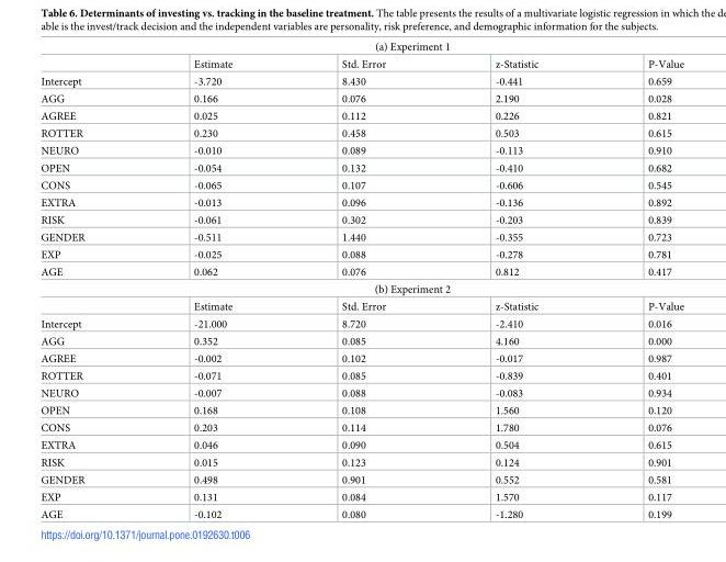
<table><tbody><tr><td colspan="5">(a) Experiment 1</td></tr><tr><td></td><td>Estimate</td><td>Std. Error</td><td>z-Statistic</td><td>P-Value</td></tr><tr><td>Intercept</td><td>-3.720</td><td>8.430</td><td>-0.441</td><td>0.659</td></tr><tr><td>AGG</td><td>0.166</td><td>0.076</td><td>2.190</td><td>0.028</td></tr><tr><td>AGREE</td><td>0.025</td><td>0.112</td><td>0.226</td><td>0.821</td></tr><tr><td>ROTTER</td><td>0.230</td><td>0.458</td><td>0.503</td><td>0.615</td></tr><tr><td>NEURO</td><td>-0.010</td><td>0.089</td><td>-0.113</td><td>0.910</td></tr><tr><td>OPEN</td><td>-0.054</td><td>0.132</td><td>-0.410</td><td>0.682</td></tr><tr><td>CONS</td><td>-0.065</td><td>0.107</td><td>-0.606</td><td>0.545</td></tr><tr><td>EXTRA</td><td>-0.013</td><td>0.096</td><td>-0.136</td><td>0.892</td></tr><tr><td>RISK</td><td>-0.061</td><td>0.302</td><td>-0.203</td><td>0.839</td></tr><tr><td>GENDER</td><td>-0.511</td><td>1.440</td><td>-0.355</td><td>0.723</td></tr><tr><td>EXP</td><td>-0.025</td><td>0.088</td><td>-0.278</td><td>0.781</td></tr><tr><td>AGE</td><td>0.062</td><td>0.076</td><td>0.812</td><td>0.417</td></tr><tr><td colspan="5">(b) Experiment 2</td></tr><tr><td></td><td>Estimate</td><td>Std. Error</td><td>z-Statistic</td><td>P-Value</td></tr><tr><td>Intercept</td><td>-21.000</td><td>8.720</td><td>-2.410</td><td>0.016</td></tr><tr><td>AGG</td><td>0.352</td><td>0.085</td><td>4.160</td><td>0.000</td></tr><tr><td>AGREE</td><td>-0.002</td><td>0.102</td><td>-0.017</td><td>0.987</td></tr><tr><td>ROTTER</td><td>-0.071</td><td>0.085</td><td>-0.839</td><td>0.401</td></tr><tr><td>NEURO</td><td>-0.007</td><td>0.088</td><td>-0.083</td><td>0.934</td></tr><tr><td>OPEN</td><td>0.168</td><td>0.108</td><td>1.560</td><td>0.120</td></tr><tr><td>CONS</td><td>0.203</td><td>0.114</td><td>1.780</td><td>0.076</td></tr><tr><td>EXTRA</td><td>0.046</td><td>0.090</td><td>0.504</td><td>0.615</td></tr><tr><td>RISK</td><td>0.015</td><td>0.123</td><td>0.124</td><td>0.901</td></tr><tr><td>GENDER</td><td>0.498</td><td>0.901</td><td>0.552</td><td>0.581</td></tr><tr><td>EXP</td><td>0.131</td><td>0.084</td><td>1.570</td><td>0.117</td></tr><tr><td>AGE</td><td>-0.102</td><td>0.080</td><td>-1.280</td><td>0.199</td></tr></tbody></table>